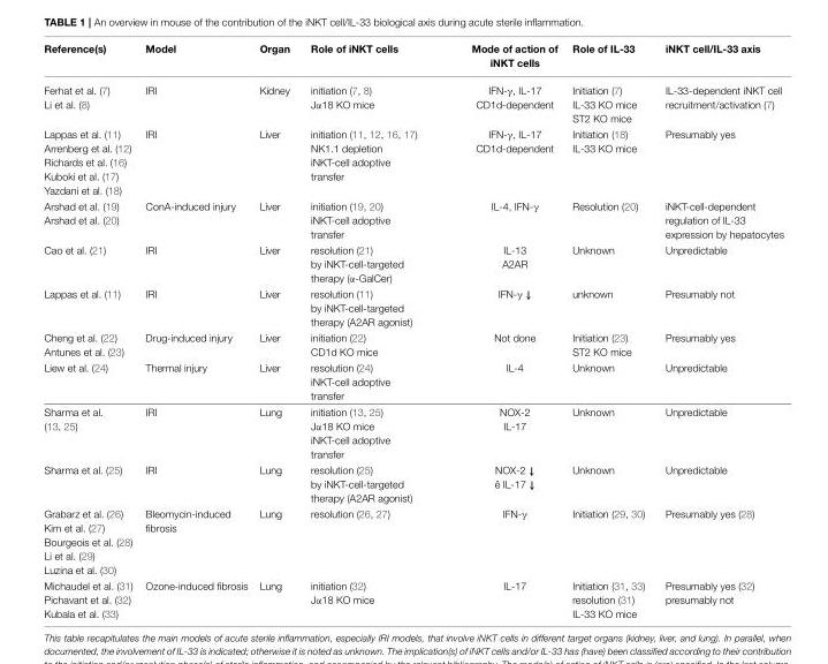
<table><thead><tr><td>Reference(s)</td><td>Model</td><td>Organ</td><td>Role of iNKT cells</td><td>Mode of action of iNKT cells</td><td>Role of IL-33</td><td>iNKT cell/IL-33 axis</td></tr></thead><tbody><tr><td>Ferhat et al. (7) Li et al. (8)</td><td>IRI</td><td>Kidney</td><td>initiation (7, 8) Jα18 KO mice</td><td>IFN-γ, IL-17 CD1d-dependent</td><td>Initiation (7) IL-33 KO mice ST2 KO mice</td><td>IL-33-dependent iNKT cell recruitment/activation (7)</td></tr><tr><td>Lappas et al. (11) Arrenberg et al. (12) Richards et al. (16) Kuboki et al. (17) Yazdani et al. (18)</td><td>IRI</td><td>Liver</td><td>initiation (11, 12, 16, 17) NK1.1 depletion iNKT-cell adoptive transfer</td><td>IFN-γ, IL-17 CD1d-dependent</td><td>Initiation (18) IL-33 KO mice</td><td>Presumably yes</td></tr><tr><td>Arshad et al. (19) Arshad et al. (20)</td><td>ConA-induced injury</td><td>Liver</td><td>initiation (19, 20) iNKT-cell adoptive transfer</td><td>IL-4, IFN-γ</td><td>Resolution (20)</td><td>iNKT-cell-dependent regulation of IL-33 expression by hepatocytes</td></tr><tr><td>Cao et al. (21)</td><td>IRI</td><td>Liver</td><td>resolution (21) by iNKT-cell-targeted therapy (α-GalCer)</td><td>IL-13 A2AR</td><td>Unknown</td><td>Unpredictable</td></tr><tr><td>Lappas et al. (11)</td><td>IRI</td><td>Liver</td><td>resolution (11) by iNKT-cell-targeted therapy (A2AR agonist)</td><td>IFN-γ ↓</td><td>unknown</td><td>Presumably not</td></tr><tr><td>Cheng et al. (22) Antunes et al. (23)</td><td>Drug-induced injury</td><td>Liver</td><td>initiation (22) CD1d KO mice</td><td>Not done</td><td>Initiation (23) ST2 KO mice</td><td>Presumably yes</td></tr><tr><td>Liew et al. (24)</td><td>Thermal injury</td><td>Liver</td><td>resolution (24) iNKT-cell adoptive transfer</td><td>IL-4</td><td>Unknown</td><td>Unpredictable</td></tr><tr><td>Sharma et al. (13, 25)</td><td>IRI</td><td>Lung</td><td>initiation (13, 25) Jα18 KO mice iNKT-cell adoptive transfer</td><td>NOX-2 IL-17</td><td>Unknown</td><td>Unpredictable</td></tr><tr><td>Sharma et al. (25)</td><td>IRI</td><td>Lung</td><td>resolution (25) by iNKT-cell-targeted therapy (A2AR agonist)</td><td>NOX-2 ↓ ê IL-17 ↓</td><td>Unknown</td><td>Unpredictable</td></tr><tr><td>Grabarz et al. (26) Kim et al. (27) Bourgeois et al. (28) Li et al. (29) Luzina et al. (30)</td><td>Bleomycin-induced fibrosis</td><td>Lung</td><td>resolution (26, 27)</td><td>IFN-γ</td><td>Initiation (29, 30)</td><td>Presumably yes (28)</td></tr><tr><td>Michaudel et al. (31) Pichavant et al. (32) Kubala et al. (33)</td><td>Ozone-induced fibrosis</td><td>Lung</td><td>initiation (32) Jα18 KO mice</td><td>IL-17</td><td>Initiation (31, 33) resolution (31) IL-33 KO mice</td><td>Presumably yes (32) presumably not</td></tr></tbody></table>